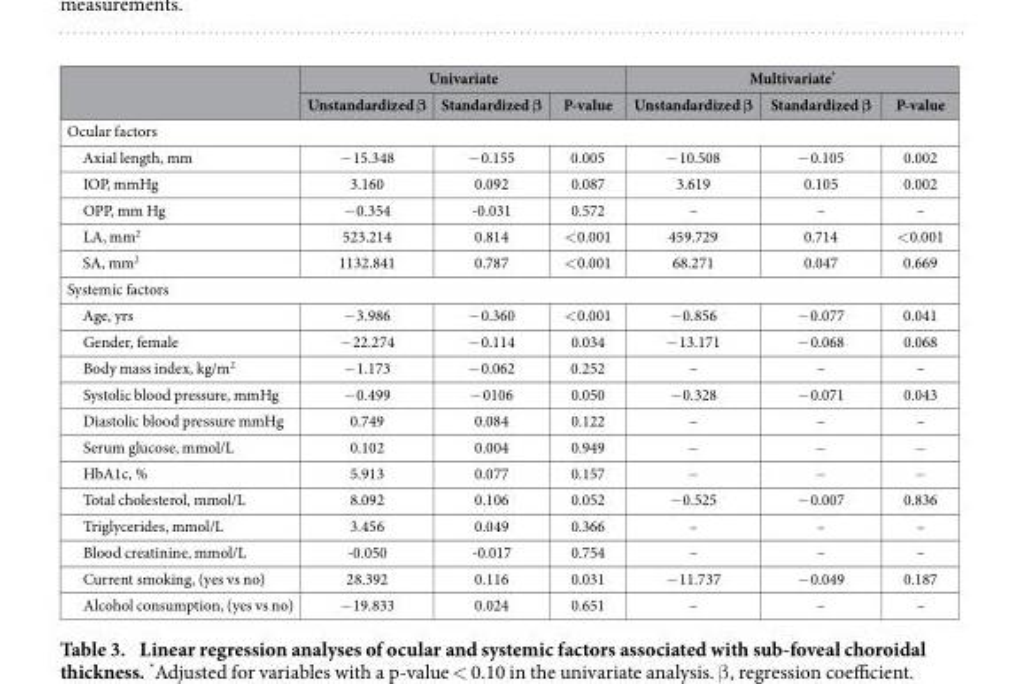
<table><thead><tr><td rowspan="2"></td><td colspan="3">Univariate</td><td colspan="3">Multivariate*</td></tr><tr><td>Unstandardized β</td><td>Standardized β</td><td>P-value</td><td>Unstandardized β</td><td>Standardized β</td><td>P-value</td></tr></thead><tbody><tr><td colspan="7">Ocular factors</td></tr><tr><td>Axial length, mm</td><td>− 15.348</td><td>− 0.155</td><td>0.005</td><td>− 10.508</td><td>− 0.105</td><td>0.002</td></tr><tr><td>IOP, mmHg</td><td>3.160</td><td>0.092</td><td>0.087</td><td>3.619</td><td>0.105</td><td>0.002</td></tr><tr><td>OPP, mm Hg</td><td>− 0.354</td><td>-0.031</td><td>0.572</td><td>–</td><td>–</td><td>–</td></tr><tr><td>LA, mm<sup>2</sup></td><td>523.214</td><td>0.814</td><td>&lt; 0.001</td><td>459.729</td><td>0.714</td><td>&lt; 0.001</td></tr><tr><td>SA, mm<sup>2</sup></td><td>1132.841</td><td>0.787</td><td>&lt; 0.001</td><td>68.271</td><td>0.047</td><td>0.669</td></tr><tr><td colspan="7">Systemic factors</td></tr><tr><td>Age, yrs</td><td>− 3.986</td><td>− 0.360</td><td>&lt; 0.001</td><td>− 0.856</td><td>− 0.077</td><td>0.041</td></tr><tr><td>Gender, female</td><td>− 22.274</td><td>− 0.114</td><td>0.034</td><td>− 13.171</td><td>− 0.068</td><td>0.068</td></tr><tr><td>Body mass index, kg/m<sup>2</sup></td><td>− 1.173</td><td>− 0.062</td><td>0.252</td><td>–</td><td>–</td><td>–</td></tr><tr><td>Systolic blood pressure, mmHg</td><td>− 0.499</td><td>− 0106</td><td>0.050</td><td>− 0.328</td><td>− 0.071</td><td>0.043</td></tr><tr><td>Diastolic blood pressure mmHg</td><td>0.749</td><td>0.084</td><td>0.122</td><td>–</td><td>–</td><td>–</td></tr><tr><td>Serum glucose, mmol/L</td><td>0.102</td><td>0.004</td><td>0.949</td><td>−</td><td>−</td><td>−</td></tr><tr><td>HbA1c, %</td><td>5.913</td><td>0.077</td><td>0.157</td><td>−</td><td>−</td><td>−</td></tr><tr><td>Total cholesterol, mmol/L</td><td>8.092</td><td>0.106</td><td>0.052</td><td>− 0.525</td><td>− 0.007</td><td>0.836</td></tr><tr><td>Triglycerides, mmol/L</td><td>3.456</td><td>0.049</td><td>0.366</td><td>–</td><td>–</td><td>–</td></tr><tr><td>Blood creatinine, mmol/L</td><td>-0.050</td><td>-0.017</td><td>0.754</td><td>–</td><td>–</td><td>–</td></tr><tr><td>Current smoking, (yes vs no)</td><td>28.392</td><td>0.116</td><td>0.031</td><td>− 11.737</td><td>− 0.049</td><td>0.187</td></tr><tr><td>Alcohol consumption, (yes vs no)</td><td>− 19.833</td><td>0.024</td><td>0.651</td><td>–</td><td>–</td><td>–</td></tr></tbody></table>